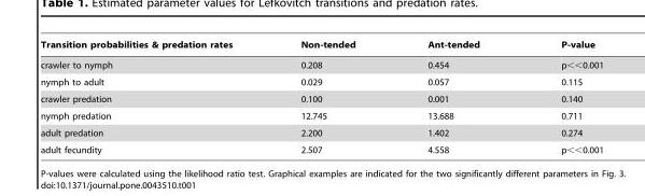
<table><thead><tr><td>Transition probabilities &amp; predation rates</td><td>Non-tended</td><td>Ant-tended</td><td>P-value</td></tr></thead><tbody><tr><td>crawler to nymph</td><td>0.208</td><td>0.454</td><td>p&lt;&lt;0.001</td></tr><tr><td>nymph to adult</td><td>0.029</td><td>0.057</td><td>0.115</td></tr><tr><td>crawler predation</td><td>0.100</td><td>0.001</td><td>0.140</td></tr><tr><td>nymph predation</td><td>12.745</td><td>13.688</td><td>0.711</td></tr><tr><td>adult predation</td><td>2.200</td><td>1.402</td><td>0.274</td></tr><tr><td>adult fecundity</td><td>2.507</td><td>4.558</td><td>p&lt;&lt;0.001</td></tr></tbody></table>